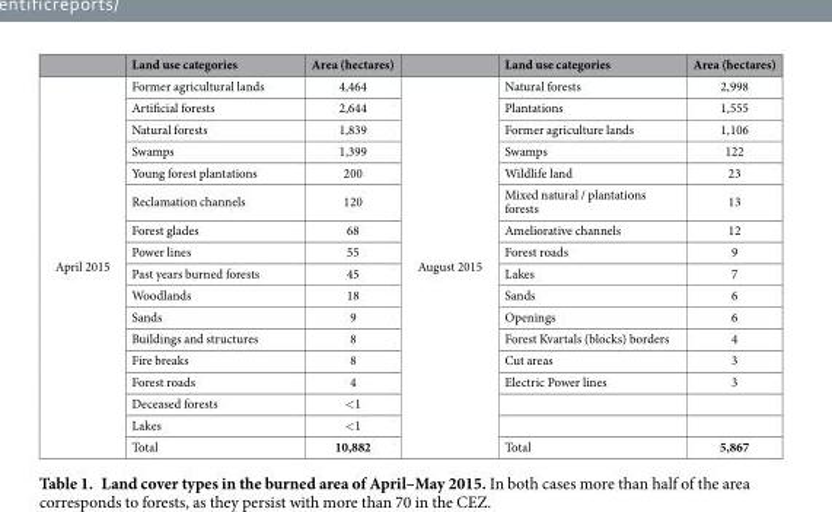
<table><thead><tr><td></td><td>Land use categories</td><td>Area (hectares)</td><td></td><td>Land use categories</td><td>Area (hectares)</td></tr></thead><tbody><tr><td rowspan="17">April 2015</td><td>Former agricultural lands</td><td>4,464</td><td rowspan="17">August 2015</td><td>Natural forests</td><td>2,998</td></tr><tr><td>Artificial forests</td><td>2,644</td><td>Plantations</td><td>1,555</td></tr><tr><td>Natural forests</td><td>1,839</td><td>Former agriculture lands</td><td>1,106</td></tr><tr><td>Swamps</td><td>1,399</td><td>Swamps</td><td>122</td></tr><tr><td>Young forest plantations</td><td>200</td><td>Wildlife land</td><td>23</td></tr><tr><td>Reclamation channels</td><td>120</td><td>Mixed natural / plantations forests</td><td>13</td></tr><tr><td>Forest glades</td><td>68</td><td>Ameliorative channels</td><td>12</td></tr><tr><td>Power lines</td><td>55</td><td>Forest roads</td><td>9</td></tr><tr><td>Past years burned forests</td><td>45</td><td>Lakes</td><td>7</td></tr><tr><td>Woodlands</td><td>18</td><td>Sands</td><td>6</td></tr><tr><td>Sands</td><td>9</td><td>Openings</td><td>6</td></tr><tr><td>Buildings and structures</td><td>8</td><td>Forest Kvartals (blocks) borders</td><td>4</td></tr><tr><td>Fire breaks</td><td>8</td><td>Cut areas</td><td>3</td></tr><tr><td>Forest roads</td><td>4</td><td>Electric Power lines</td><td>3</td></tr><tr><td>Deceased forests</td><td>&lt; 1</td><td></td><td></td></tr><tr><td>Lakes</td><td>&lt; 1</td><td></td><td></td></tr><tr><td>Total</td><td>10,882</td><td>Total</td><td>5,867</td></tr></tbody></table>